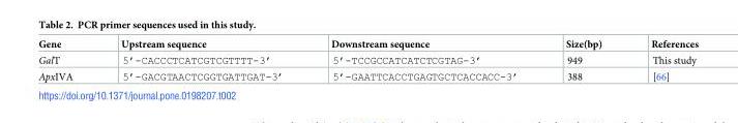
<table><thead><tr><td>Gene</td><td>Upstream sequence</td><td>Downstream sequence</td><td>Size(bp)</td><td>References</td></tr></thead><tbody><tr><td>GalT</td><td>5’-CACCCTCATCGTCGTTTT-3’</td><td>5’-TCCGCCATCATCTCGTAG-3’</td><td>949</td><td>This study</td></tr><tr><td>ApxIVA</td><td>5’-GACGTAACTCGGTGATTGAT-3’</td><td>5’-GAATTCACCTGAGTGCTCACCACC-3’</td><td>388</td><td>[66]</td></tr></tbody></table>